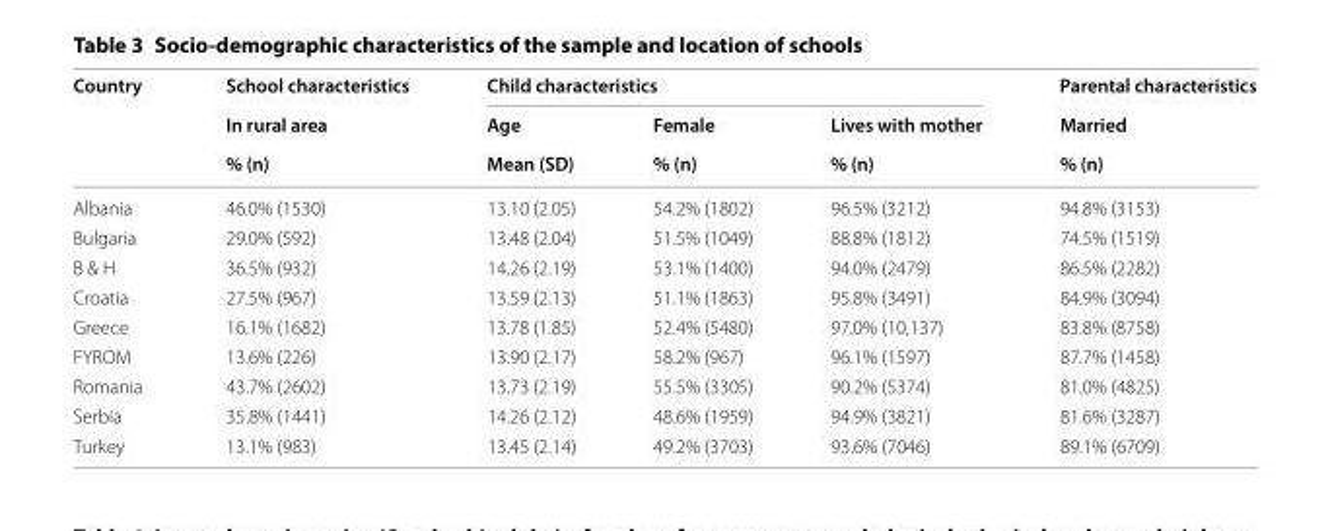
<table><thead><tr><td rowspan="3">Country</td><td rowspan="3">School characteristics In rural area % (n)</td><td colspan="3">Child characteristics</td><td rowspan="3">Parental characteristics Married % (n)</td></tr><tr><td rowspan="2">Age Mean (SD)</td><td rowspan="2">Female % (n)</td><td rowspan="2">Lives with mother % (n)</td></tr><tr></tr></thead><tbody><tr><td>Albania</td><td>46.0% (1530)</td><td>13.10 (2.05)</td><td>54.2% (1802)</td><td>96.5% (3212)</td><td>94.8% (3153)</td></tr><tr><td>Bulgaria</td><td>29.0% (592)</td><td>13.48 (2.04)</td><td>51.5% (1049)</td><td>88.8% (1812)</td><td>74.5% (1519)</td></tr><tr><td>B &amp; H</td><td>36.5% (932)</td><td>14.26 (2.19)</td><td>53.1% (1400)</td><td>94.0% (2479)</td><td>86.5% (2282)</td></tr><tr><td>Croatia</td><td>27.5% (967)</td><td>13.59 (2.13)</td><td>51.1% (1863)</td><td>95.8% (3491)</td><td>84.9% (3094)</td></tr><tr><td>Greece</td><td>16.1% (1682)</td><td>13.78 (1.85)</td><td>52.4% (5480)</td><td>97.0% (10,137)</td><td>83.8% (8758)</td></tr><tr><td>FYROM</td><td>13.6% (226)</td><td>13.90 (2.17)</td><td>58.2% (967)</td><td>96.1% (1597)</td><td>87.7% (1458)</td></tr><tr><td>Romania</td><td>43.7% (2602)</td><td>13.73 (2.19)</td><td>55.5% (3305)</td><td>90.2% (5374)</td><td>81.0% (4825)</td></tr><tr><td>Serbia</td><td>35.8% (1441)</td><td>14.26 (2.12)</td><td>48.6% (1959)</td><td>94.9% (3821)</td><td>81.6% (3287)</td></tr><tr><td>Turkey</td><td>13.1% (983)</td><td>13.45 (2.14)</td><td>49.2% (3703)</td><td>93.6% (7046)</td><td>89.1% (6709)</td></tr></tbody></table>